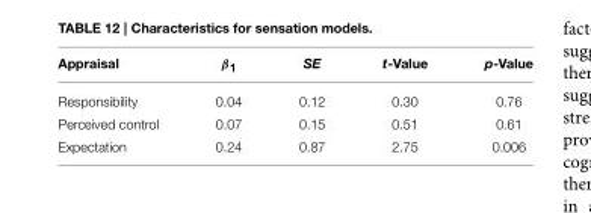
<table><thead><tr><td>Appraisal</td><td>β<sub>1</sub></td><td>SE</td><td>t-Value</td><td>p-Value</td></tr></thead><tbody><tr><td>Responsibility</td><td>0.04</td><td>0.12</td><td>0.30</td><td>0.76</td></tr><tr><td>Perceived control</td><td>0.07</td><td>0.15</td><td>0.51</td><td>0.61</td></tr><tr><td>Expectation</td><td>0.24</td><td>0.87</td><td>2.75</td><td>0.006</td></tr></tbody></table>